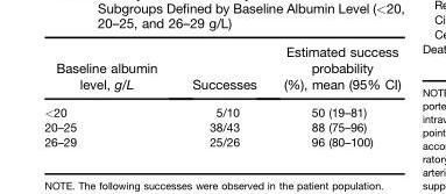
<table><thead><tr><td>Baseline albumin level, g/L</td><td>Successes</td><td>Estimated success probability (%), mean (95% CI)</td></tr></thead><tbody><tr><td>&lt;20</td><td>5/10</td><td>50 (19–81)</td></tr><tr><td>20–25</td><td>38/43</td><td>88 (75–96)</td></tr><tr><td>26–29</td><td>25/26</td><td>96 (80–100)</td></tr></tbody></table>